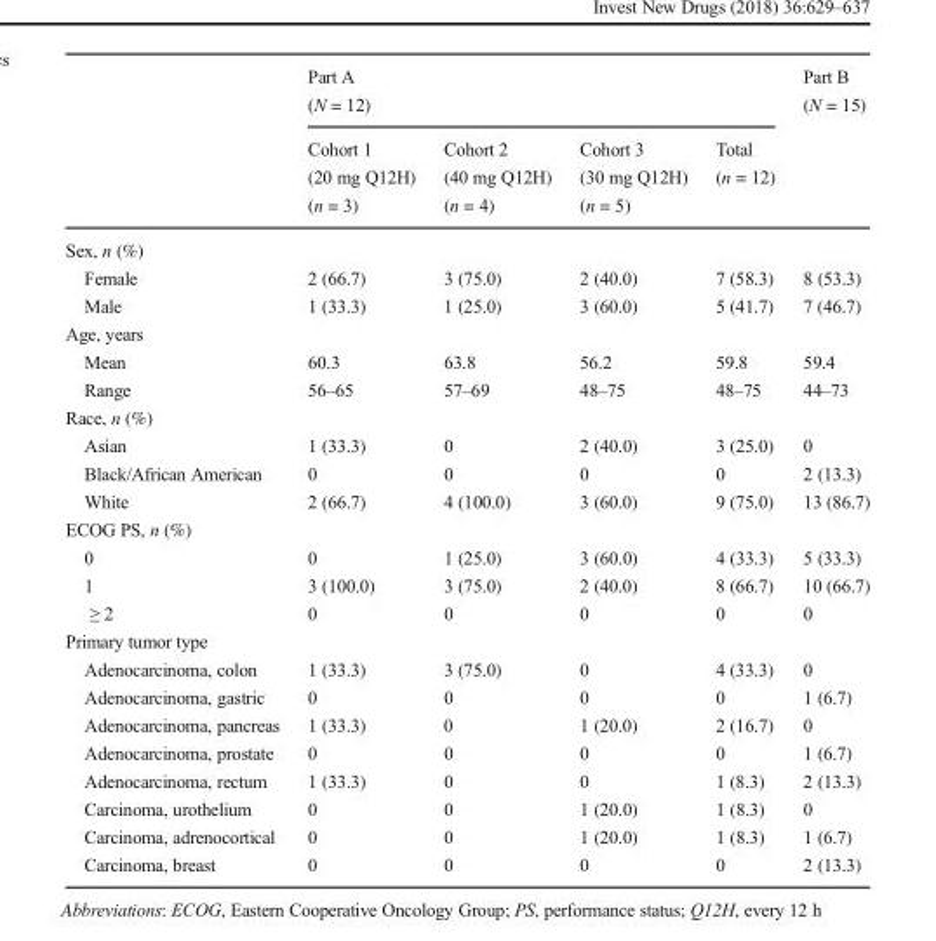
<table><thead><tr><td rowspan="2"></td><td colspan="4">Part A (N = 12)</td><td rowspan="2">Part B (N = 15)</td></tr><tr><td>Cohort 1 (20 mg Q12H) (n = 3)</td><td>Cohort 2 (40 mg Q12H) (n = 4)</td><td>Cohort 3 (30 mg Q12H) (n = 5)</td><td>Total (n = 12)</td></tr></thead><tbody><tr><td colspan="6">Sex, n (%)</td></tr><tr><td>Female</td><td>2 (66.7)</td><td>3 (75.0)</td><td>2 (40.0)</td><td>7 (58.3)</td><td>8 (53.3)</td></tr><tr><td>Male</td><td>1 (33.3)</td><td>1 (25.0)</td><td>3 (60.0)</td><td>5 (41.7)</td><td>7 (46.7)</td></tr><tr><td colspan="6">Age, years</td></tr><tr><td>Mean</td><td>60.3</td><td>63.8</td><td>56.2</td><td>59.8</td><td>59.4</td></tr><tr><td>Range</td><td>56–65</td><td>57–69</td><td>48–75</td><td>48–75</td><td>44–73</td></tr><tr><td colspan="6">Race, n (%)</td></tr><tr><td>Asian</td><td>1 (33.3)</td><td>0</td><td>2 (40.0)</td><td>3 (25.0)</td><td>0</td></tr><tr><td>Black/African American</td><td>0</td><td>0</td><td>0</td><td>0</td><td>2 (13.3)</td></tr><tr><td>White</td><td>2 (66.7)</td><td>4 (100.0)</td><td>3 (60.0)</td><td>9 (75.0)</td><td>13 (86.7)</td></tr><tr><td colspan="6">ECOG PS, n (%)</td></tr><tr><td>0</td><td>0</td><td>1 (25.0)</td><td>3 (60.0)</td><td>4 (33.3)</td><td>5 (33.3)</td></tr><tr><td>1</td><td>3 (100.0)</td><td>3 (75.0)</td><td>2 (40.0)</td><td>8 (66.7)</td><td>10 (66.7)</td></tr><tr><td>≥ 2</td><td>0</td><td>0</td><td>0</td><td>0</td><td>0</td></tr><tr><td colspan="6">Primary tumor type</td></tr><tr><td>Adenocarcinoma, colon</td><td>1 (33.3)</td><td>3 (75.0)</td><td>0</td><td>4 (33.3)</td><td>0</td></tr><tr><td>Adenocarcinoma, gastric</td><td>0</td><td>0</td><td>0</td><td>0</td><td>1 (6.7)</td></tr><tr><td>Adenocarcinoma, pancreas</td><td>1 (33.3)</td><td>0</td><td>1 (20.0)</td><td>2 (16.7)</td><td>0</td></tr><tr><td>Adenocarcinoma, prostate</td><td>0</td><td>0</td><td>0</td><td>0</td><td>1 (6.7)</td></tr><tr><td>Adenocarcinoma, rectum</td><td>1 (33.3)</td><td>0</td><td>0</td><td>1 (8.3)</td><td>2 (13.3)</td></tr><tr><td>Carcinoma, urothelium</td><td>0</td><td>0</td><td>1 (20.0)</td><td>1 (8.3)</td><td>0</td></tr><tr><td>Carcinoma, adrenocortical</td><td>0</td><td>0</td><td>1 (20.0)</td><td>1 (8.3)</td><td>1 (6.7)</td></tr><tr><td>Carcinoma, breast</td><td>0</td><td>0</td><td>0</td><td>0</td><td>2 (13.3)</td></tr></tbody></table>